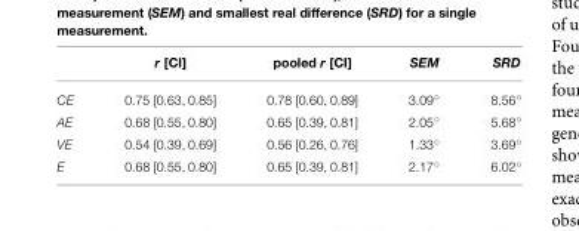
<table><thead><tr><td></td><td>r [CI]</td><td>pooled r [CI]</td><td>SEM</td><td>SRD</td></tr></thead><tbody><tr><td>CE</td><td>0.75 [0.63, 0.85]</td><td>0.78 [0.60, 0.89]</td><td>3.09◦</td><td>8.56◦</td></tr><tr><td>AE</td><td>0.68 [0.55, 0.80]</td><td>0.65 [0.39, 0.81]</td><td>2.05◦</td><td>5.68◦</td></tr><tr><td>VE</td><td>0.54 [0.39, 0.69]</td><td>0.56 [0.26, 0.76]</td><td>1.33◦</td><td>3.69◦</td></tr><tr><td>E</td><td>0.68 [0.55, 0.80]</td><td>0.65 [0.39, 0.81]</td><td>2.17◦</td><td>6.02◦</td></tr></tbody></table>